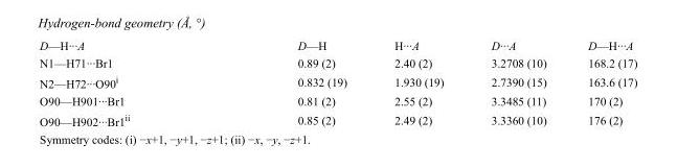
<table><tbody><tr><td>D—H···A</td><td>D—H</td><td>H···A</td><td>D···A</td><td>D—H···A</td></tr><tr><td>N1—H71···Br1</td><td>0.89 (2)</td><td>2.40 (2)</td><td>3.2708 (10)</td><td>168.2 (17)</td></tr><tr><td>N2—H72···O90<sup>i</sup></td><td>0.832 (19)</td><td>1.930 (19)</td><td>2.7390 (15)</td><td>163.6 (17)</td></tr><tr><td>O90—H901···Br1</td><td>0.81 (2)</td><td>2.55 (2)</td><td>3.3485 (11)</td><td>170 (2)</td></tr><tr><td>O90—H902···Br1<sup>ii</sup></td><td>0.85 (2)</td><td>2.49 (2)</td><td>3.3360 (10)</td><td>176 (2)</td></tr></tbody></table>